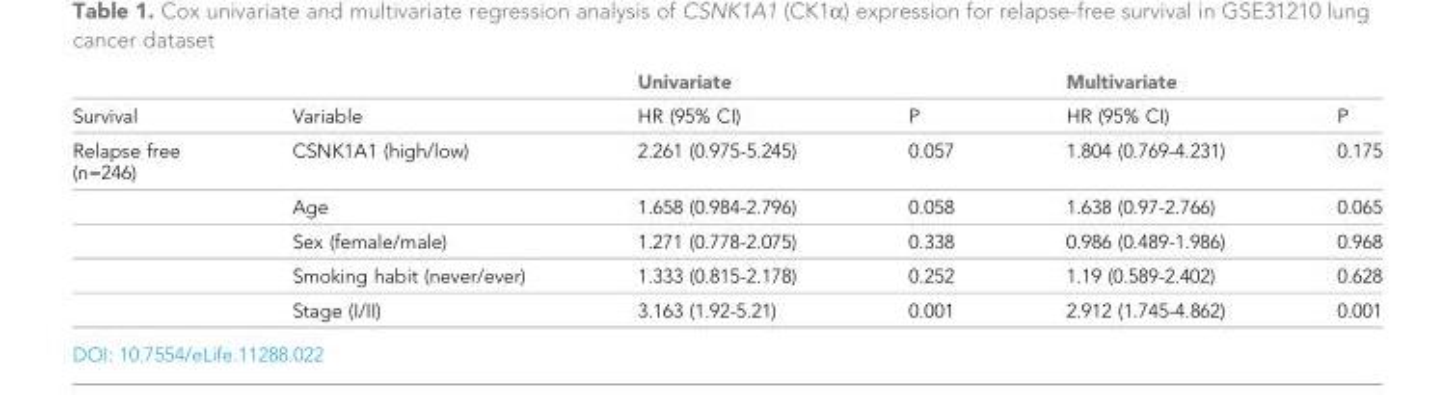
<table><thead><tr><td rowspan="2">Survival</td><td rowspan="2">Variable</td><td colspan="2">Univariate</td><td colspan="2">Multivariate</td></tr><tr><td>HR (95% CI)</td><td>P</td><td>HR (95% CI)</td><td>P</td></tr></thead><tbody><tr><td rowspan="5">Relapse free (n=246)</td><td>CSNK1A1 (high/low)</td><td>2.261 (0.975-5.245)</td><td>0.057</td><td>1.804 (0.769-4.231)</td><td>0.175</td></tr><tr><td>Age</td><td>1.658 (0.984-2.796)</td><td>0.058</td><td>1.638 (0.97-2.766)</td><td>0.065</td></tr><tr><td>Sex (female/male)</td><td>1.271 (0.778-2.075)</td><td>0.338</td><td>0.986 (0.489-1.986)</td><td>0.968</td></tr><tr><td>Smoking habit (never/ever)</td><td>1.333 (0.815-2.178)</td><td>0.252</td><td>1.19 (0.589-2.402)</td><td>0.628</td></tr><tr><td>Stage (I/II)</td><td>3.163 (1.92-5.21)</td><td>0.001</td><td>2.912 (1.745-4.862)</td><td>0.001</td></tr></tbody></table>